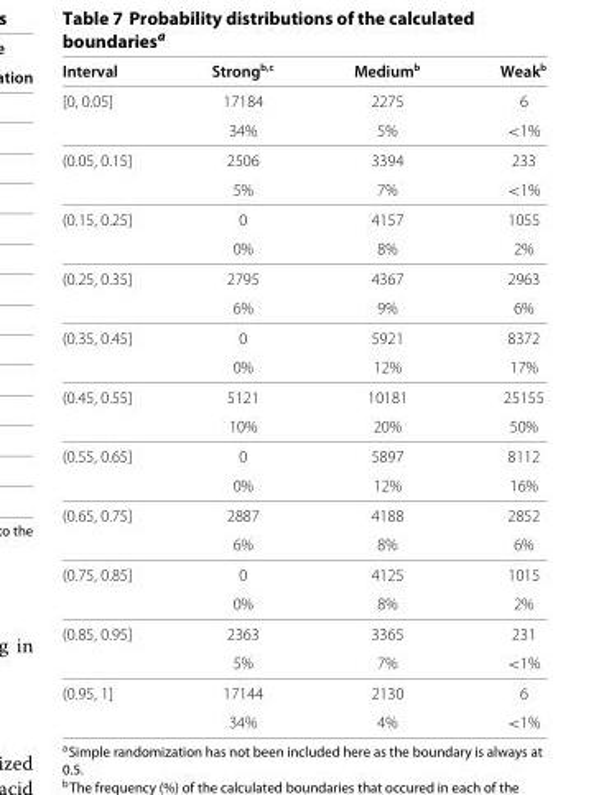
<table><thead><tr><td>Interval</td><td>Strong<sup>b,c</sup></td><td>Medium<sup>b</sup></td><td>Weak<sup>b</sup></td></tr></thead><tbody><tr><td rowspan="2">[0, 0.05]</td><td>17184</td><td>2275</td><td>6</td></tr><tr><td>34%</td><td>5%</td><td>&lt;1%</td></tr><tr><td rowspan="2">(0.05, 0.15]</td><td>2506</td><td>3394</td><td>233</td></tr><tr><td>5%</td><td>7%</td><td>&lt;1%</td></tr><tr><td rowspan="2">(0.15, 0.25]</td><td>0</td><td>4157</td><td>1055</td></tr><tr><td>0%</td><td>8%</td><td>2%</td></tr><tr><td rowspan="2">(0.25, 0.35]</td><td>2795</td><td>4367</td><td>2963</td></tr><tr><td>6%</td><td>9%</td><td>6%</td></tr><tr><td rowspan="2">(0.35, 0.45]</td><td>0</td><td>5921</td><td>8372</td></tr><tr><td>0%</td><td>12%</td><td>17%</td></tr><tr><td rowspan="2">(0.45, 0.55]</td><td>5121</td><td>10181</td><td>25155</td></tr><tr><td>10%</td><td>20%</td><td>50%</td></tr><tr><td rowspan="2">(0.55, 0.65]</td><td>0</td><td>5897</td><td>8112</td></tr><tr><td>0%</td><td>12%</td><td>16%</td></tr><tr><td rowspan="2">(0.65, 0.75]</td><td>2887</td><td>4188</td><td>2852</td></tr><tr><td>6%</td><td>8%</td><td>6%</td></tr><tr><td rowspan="2">(0.75, 0.85]</td><td>0</td><td>4125</td><td>1015</td></tr><tr><td>0%</td><td>8%</td><td>2%</td></tr><tr><td rowspan="2">(0.85, 0.95]</td><td>2363</td><td>3365</td><td>231</td></tr><tr><td>5%</td><td>7%</td><td>&lt;1%</td></tr><tr><td rowspan="2">(0.95, 1]</td><td>17144</td><td>2130</td><td>6</td></tr><tr><td>34%</td><td>4%</td><td>&lt;1%</td></tr></tbody></table>